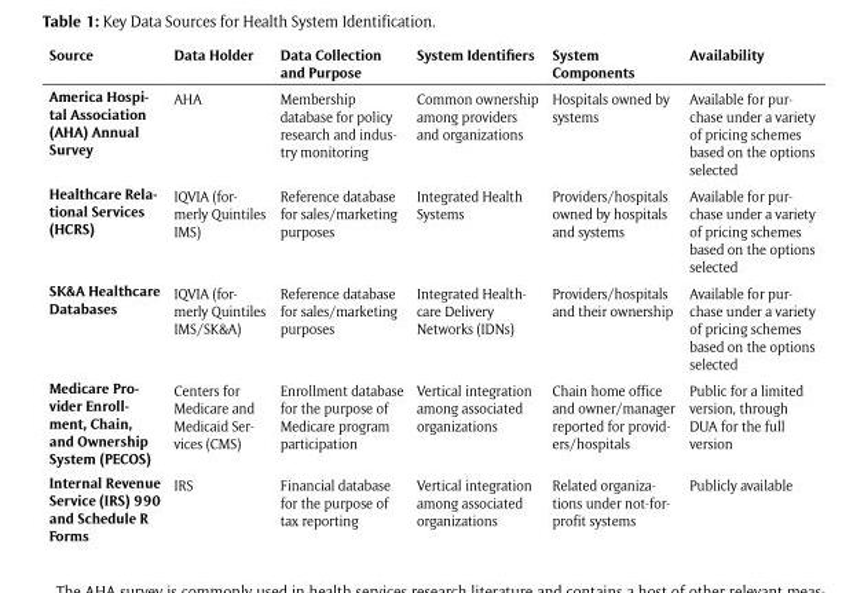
<table><thead><tr><td>Source</td><td>Data Holder</td><td>Data Collection and Purpose</td><td>System Identifiers</td><td>System Components</td><td>Availability</td></tr></thead><tbody><tr><td>America Hospi- tal Association (AHA) Annual Survey</td><td>AHA</td><td>Membership database for policy research and indus- try monitoring</td><td>Common ownership among providers and organizations</td><td>Hospitals owned by systems</td><td>Available for pur- chase under a variety of pricing schemes based on the options selected</td></tr><tr><td>Healthcare Rela- tional Services (HCRS)</td><td>IQVIA (for- merly Quintiles IMS)</td><td>Reference database for sales/marketing purposes</td><td>Integrated Health Systems</td><td>Providers/hospitals owned by hospitals and systems</td><td>Available for pur- chase under a variety of pricing schemes based on the options selected</td></tr><tr><td>SK&amp;A Healthcare Databases</td><td>IQVIA (for- merly Quintiles IMS/SK&amp;A)</td><td>Reference database for sales/marketing purposes</td><td>Integrated Health- care Delivery Networks (IDNs)</td><td>Providers/hospitals and their ownership</td><td>Available for pur- chase under a variety of pricing schemes based on the options selected</td></tr><tr><td>Medicare Pro- vider Enroll- ment, Chain, and Ownership System (PECOS)</td><td>Centers for Medicare and Medicaid Ser- vices (CMS)</td><td>Enrollment database for the purpose of Medicare program participation</td><td>Vertical integration among associated organizations</td><td>Chain home office and owner/manager reported for provid- ers/hospitals</td><td>Public for a limited version, through DUA for the full version</td></tr><tr><td>Internal Revenue Service (IRS) 990 and Schedule R Forms</td><td>IRS</td><td>Financial database for the purpose of tax reporting</td><td>Vertical integration among associated organizations</td><td>Related organiza- tions under not-for- profit systems</td><td>Publicly available</td></tr></tbody></table>